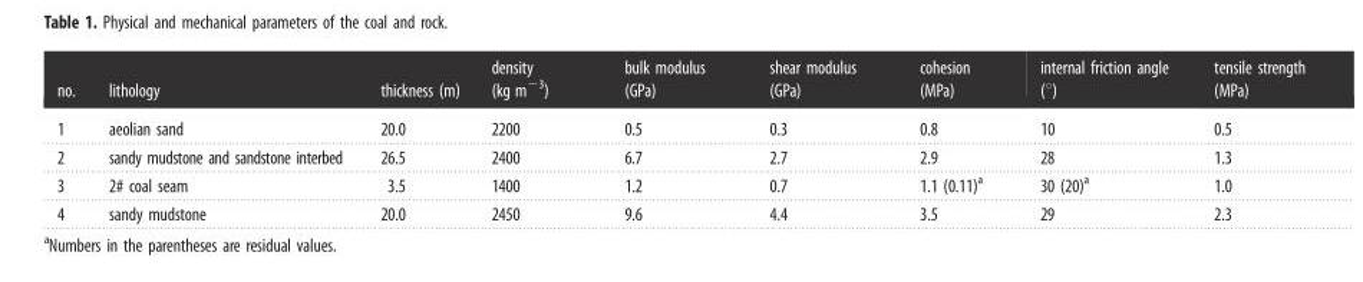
<table><thead><tr><td>no.</td><td>lithology</td><td>thickness (m)</td><td>density (kg m<sup>−3</sup>)</td><td>bulk modulus (GPa)</td><td>shear modulus (GPa)</td><td>cohesion (MPa)</td><td>internal friction angle (°)</td><td>tensile strength (MPa)</td></tr></thead><tbody><tr><td>1</td><td>aeolian sand</td><td>20.0</td><td>2200</td><td>0.5</td><td>0.3</td><td>0.8</td><td>10</td><td>0.5</td></tr><tr><td>2</td><td>sandy mudstone and sandstone interbed</td><td>26.5</td><td>2400</td><td>6.7</td><td>2.7</td><td>2.9</td><td>28</td><td>1.3</td></tr><tr><td>3</td><td>2# coal seam</td><td>3.5</td><td>1400</td><td>1.2</td><td>0.7</td><td>1.1 (0.11)<sup>a</sup></td><td>30 (20)<sup>a</sup></td><td>1.0</td></tr><tr><td>4</td><td>sandy mudstone</td><td>20.0</td><td>2450</td><td>9.6</td><td>4.4</td><td>3.5</td><td>29</td><td>2.3</td></tr></tbody></table>